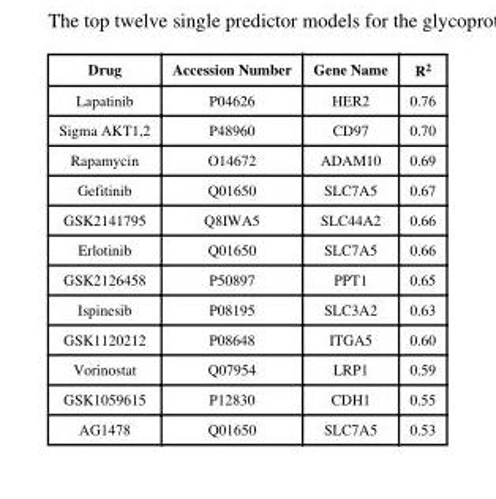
<table><thead><tr><td>Drug</td><td>Accession Number</td><td>Gene Name</td><td>R<sup>2</sup></td></tr></thead><tbody><tr><td>Lapatinib</td><td>P04626</td><td>HER2</td><td>0.76</td></tr><tr><td>Sigma AKT1,2</td><td>P48960</td><td>CD97</td><td>0.70</td></tr><tr><td>Rapamycin</td><td>O14672</td><td>ADAM10</td><td>0.69</td></tr><tr><td>Gefitinib</td><td>Q01650</td><td>SLC7A5</td><td>0.67</td></tr><tr><td>GSK2141795</td><td>Q8IWA5</td><td>SLC44A2</td><td>0.66</td></tr><tr><td>Erlotinib</td><td>Q01650</td><td>SLC7A5</td><td>0.66</td></tr><tr><td>GSK2126458</td><td>P50897</td><td>PPT1</td><td>0.65</td></tr><tr><td>Ispinesib</td><td>P08195</td><td>SLC3A2</td><td>0.63</td></tr><tr><td>GSK1120212</td><td>P08648</td><td>ITGA5</td><td>0.60</td></tr><tr><td>Vorinostat</td><td>Q07954</td><td>LRP1</td><td>0.59</td></tr><tr><td>GSK1059615</td><td>P12830</td><td>CDH1</td><td>0.55</td></tr><tr><td>AG1478</td><td>Q01650</td><td>SLC7A5</td><td>0.53</td></tr></tbody></table>